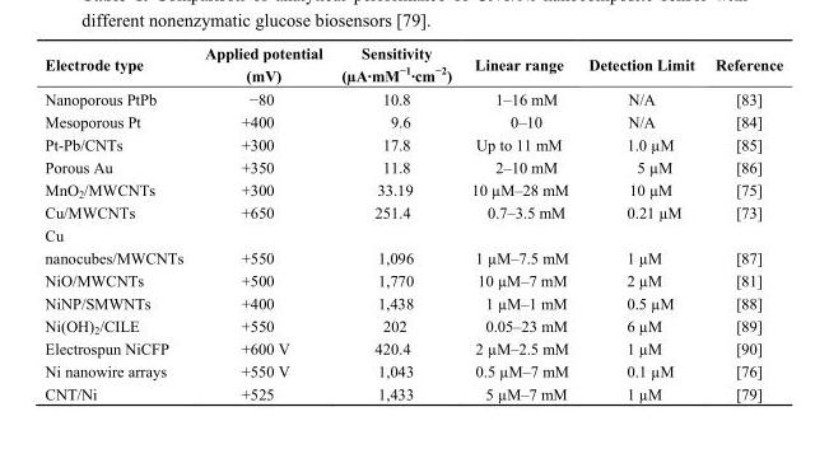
<table><thead><tr><td>Electrode type</td><td>Applied potential (mV)</td><td>Sensitivity (µA·mM<sup>−1</sup>·cm<sup>−2</sup>)</td><td>Linear range</td><td>Detection Limit</td><td>Reference</td></tr></thead><tbody><tr><td>Nanoporous PtPb</td><td>−80</td><td>10.8</td><td>1–16 mM</td><td>N/A</td><td>[83]</td></tr><tr><td>Mesoporous Pt</td><td>+400</td><td>9.6</td><td>0–10</td><td>N/A</td><td>[84]</td></tr><tr><td>Pt-Pb/CNTs</td><td>+300</td><td>17.8</td><td>Up to 11 mM</td><td>1.0 µM</td><td>[85]</td></tr><tr><td>Porous Au</td><td>+350</td><td>11.8</td><td>2–10 mM</td><td>5 µM</td><td>[86]</td></tr><tr><td>MnO<sub>2</sub>/MWCNTs</td><td>+300</td><td>33.19</td><td>10 µM–28 mM</td><td>10 µM</td><td>[75]</td></tr><tr><td>Cu/MWCNTs</td><td>+650</td><td>251.4</td><td>0.7–3.5 mM</td><td>0.21 µM</td><td>[73]</td></tr><tr><td>Cu nanocubes/MWCNTs</td><td>+550</td><td>1,096</td><td>1 µM–7.5 mM</td><td>1 µM</td><td>[87]</td></tr><tr><td>NiO/MWCNTs</td><td>+500</td><td>1,770</td><td>10 µM–7 mM</td><td>2 µM</td><td>[81]</td></tr><tr><td>NiNP/SMWNTs</td><td>+400</td><td>1,438</td><td>1 µM–1 mM</td><td>0.5 µM</td><td>[88]</td></tr><tr><td>Ni(OH)<sub>2</sub>/CILE</td><td>+550</td><td>202</td><td>0.05–23 mM</td><td>6 µM</td><td>[89]</td></tr><tr><td>Electrospun NiCFP</td><td>+600 V</td><td>420.4</td><td>2 µM–2.5 mM</td><td>1 µM</td><td>[90]</td></tr><tr><td>Ni nanowire arrays</td><td>+550 V</td><td>1,043</td><td>0.5 µM–7 mM</td><td>0.1 µM</td><td>[76]</td></tr><tr><td>CNT/Ni</td><td>+525</td><td>1,433</td><td>5 µM–7 mM</td><td>1 µM</td><td>[79]</td></tr></tbody></table>